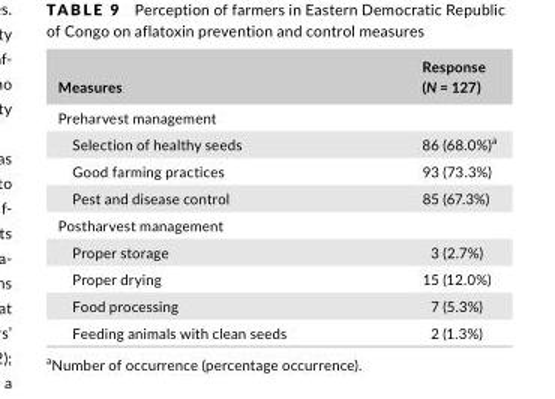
<table><thead><tr><td>Measures</td><td>Response (N = 127)</td></tr></thead><tbody><tr><td colspan="2">Preharvest management</td></tr><tr><td>Selection of healthy seeds</td><td>86 (68.0%)<sup>a</sup></td></tr><tr><td>Good farming practices</td><td>93 (73.3%)</td></tr><tr><td>Pest and disease control</td><td>85 (67.3%)</td></tr><tr><td colspan="2">Postharvest management</td></tr><tr><td>Proper storage</td><td>3 (2.7%)</td></tr><tr><td>Proper drying</td><td>15 (12.0%)</td></tr><tr><td>Food processing</td><td>7 (5.3%)</td></tr><tr><td>Feeding animals with clean seeds</td><td>2 (1.3%)</td></tr></tbody></table>